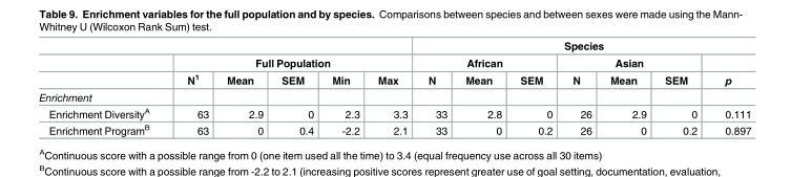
<table><thead><tr><td rowspan="3"></td><td></td><td></td><td></td><td></td><td></td><td colspan="7">Species</td></tr><tr><td colspan="5">Full Population</td><td colspan="3">African</td><td colspan="3">Asian</td><td rowspan="2">p</td></tr><tr><td>N<sup>1</sup></td><td>Mean</td><td>SEM</td><td>Min</td><td>Max</td><td>N</td><td>Mean</td><td>SEM</td><td>N</td><td>Mean</td><td>SEM</td></tr></thead><tbody><tr><td colspan="13">Enrichment</td></tr><tr><td>Enrichment Diversity<sup>A</sup></td><td>63</td><td>2.9</td><td>0</td><td>2.3</td><td>3.3</td><td>33</td><td>2.8</td><td>0</td><td>26</td><td>2.9</td><td>0</td><td>0.111</td></tr><tr><td>Enrichment Program<sup>B</sup></td><td>63</td><td>0</td><td>0.4</td><td>-2.2</td><td>2.1</td><td>33</td><td>0</td><td>0.2</td><td>26</td><td>0</td><td>0.2</td><td>0.897</td></tr></tbody></table>